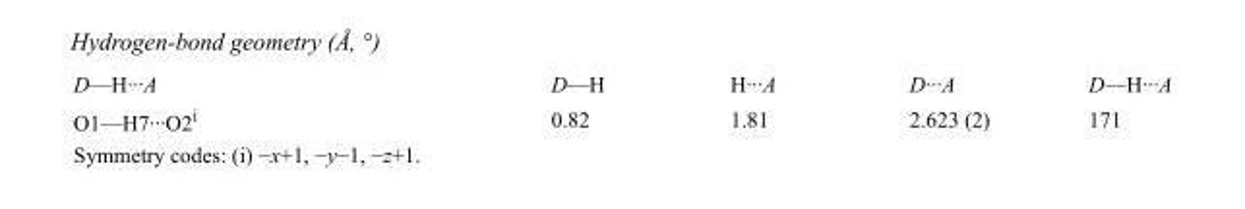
<table><tbody><tr><td>D—H···A</td><td>D—H</td><td>H···A</td><td>D···A</td><td>D—H···A</td></tr><tr><td>O1—H7···O2<sup>i</sup></td><td>0.82</td><td>1.81</td><td>2.623 (2)</td><td>171</td></tr></tbody></table>